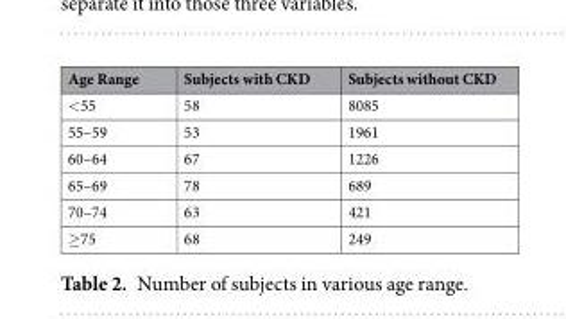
<table><thead><tr><td>Age Range</td><td>Subjects with CKD</td><td>Subjects without CKD</td></tr></thead><tbody><tr><td>&lt;55</td><td>58</td><td>8085</td></tr><tr><td>55–59</td><td>53</td><td>1961</td></tr><tr><td>60–64</td><td>67</td><td>1226</td></tr><tr><td>65–69</td><td>78</td><td>689</td></tr><tr><td>70–74</td><td>63</td><td>421</td></tr><tr><td>≥75</td><td>68</td><td>249</td></tr></tbody></table>